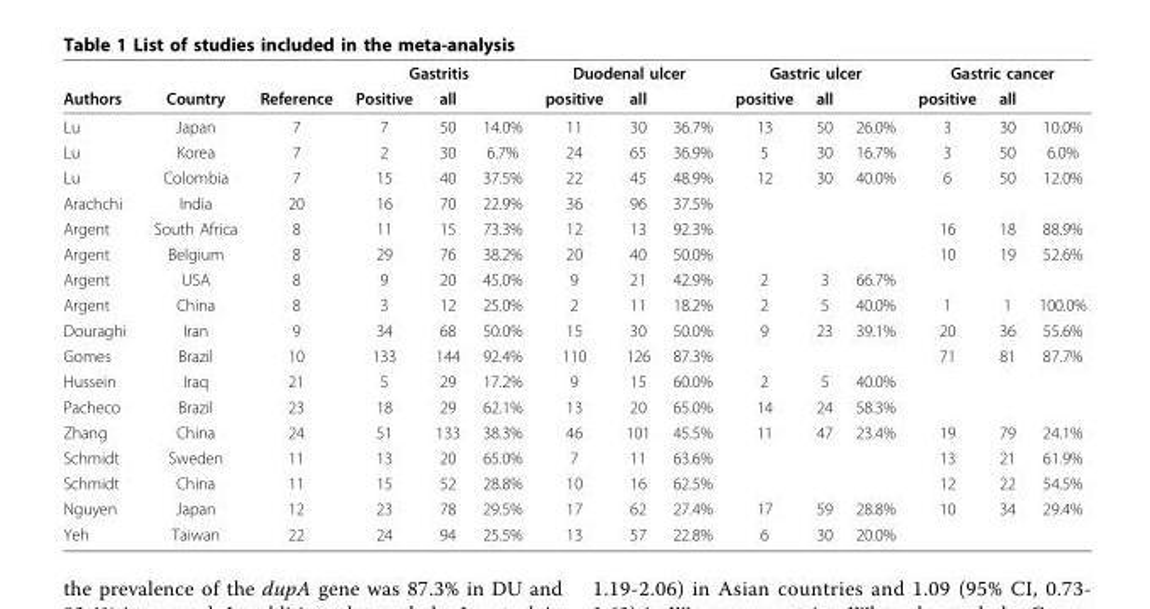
<table><thead><tr><td rowspan="2">Authors</td><td rowspan="2">Country</td><td rowspan="2">Reference</td><td colspan="3">Gastritis</td><td colspan="3">Duodenal ulcer</td><td colspan="3">Gastric ulcer</td><td colspan="3">Gastric cancer</td></tr><tr><td>Positive</td><td>all</td><td></td><td>positive</td><td>all</td><td></td><td>positive</td><td>all</td><td></td><td>positive</td><td>all</td><td></td></tr></thead><tbody><tr><td>Lu</td><td>Japan</td><td>7</td><td>7</td><td>50</td><td>14.0%</td><td>11</td><td>30</td><td>36.7%</td><td>13</td><td>50</td><td>26.0%</td><td>3</td><td>30</td><td>10.0%</td></tr><tr><td>Lu</td><td>Korea</td><td>7</td><td>2</td><td>30</td><td>6.7%</td><td>24</td><td>65</td><td>36.9%</td><td>5</td><td>30</td><td>16.7%</td><td>3</td><td>50</td><td>6.0%</td></tr><tr><td>Lu</td><td>Colombia</td><td>7</td><td>15</td><td>40</td><td>37.5%</td><td>22</td><td>45</td><td>48.9%</td><td>12</td><td>30</td><td>40.0%</td><td>6</td><td>50</td><td>12.0%</td></tr><tr><td>Arachchi</td><td>India</td><td>20</td><td>16</td><td>70</td><td>22.9%</td><td>36</td><td>96</td><td>37.5%</td><td></td><td></td><td></td><td></td><td></td><td></td></tr><tr><td>Argent</td><td>South Africa</td><td>8</td><td>11</td><td>15</td><td>73.3%</td><td>12</td><td>13</td><td>92.3%</td><td></td><td></td><td></td><td>16</td><td>18</td><td>88.9%</td></tr><tr><td>Argent</td><td>Belgium</td><td>8</td><td>29</td><td>76</td><td>38.2%</td><td>20</td><td>40</td><td>50.0%</td><td></td><td></td><td></td><td>10</td><td>19</td><td>52.6%</td></tr><tr><td>Argent</td><td>USA</td><td>8</td><td>9</td><td>20</td><td>45.0%</td><td>9</td><td>21</td><td>42.9%</td><td>2</td><td>3</td><td>66.7%</td><td></td><td></td><td></td></tr><tr><td>Argent</td><td>China</td><td>8</td><td>3</td><td>12</td><td>25.0%</td><td>2</td><td>11</td><td>18.2%</td><td>2</td><td>5</td><td>40.0%</td><td>1</td><td>1</td><td>100.0%</td></tr><tr><td>Douraghi</td><td>Iran</td><td>9</td><td>34</td><td>68</td><td>50.0%</td><td>15</td><td>30</td><td>50.0%</td><td>9</td><td>23</td><td>39.1%</td><td>20</td><td>36</td><td>55.6%</td></tr><tr><td>Gomes</td><td>Brazil</td><td>10</td><td>133</td><td>144</td><td>92.4%</td><td>110</td><td>126</td><td>87.3%</td><td></td><td></td><td></td><td>71</td><td>81</td><td>87.7%</td></tr><tr><td>Hussein</td><td>Iraq</td><td>21</td><td>5</td><td>29</td><td>17.2%</td><td>9</td><td>15</td><td>60.0%</td><td>2</td><td>5</td><td>40.0%</td><td></td><td></td><td></td></tr><tr><td>Pacheco</td><td>Brazil</td><td>23</td><td>18</td><td>29</td><td>62.1%</td><td>13</td><td>20</td><td>65.0%</td><td>14</td><td>24</td><td>58.3%</td><td></td><td></td><td></td></tr><tr><td>Zhang</td><td>China</td><td>24</td><td>51</td><td>133</td><td>38.3%</td><td>46</td><td>101</td><td>45.5%</td><td>11</td><td>47</td><td>23.4%</td><td>19</td><td>79</td><td>24.1%</td></tr><tr><td>Schmidt</td><td>Sweden</td><td>11</td><td>13</td><td>20</td><td>65.0%</td><td>7</td><td>11</td><td>63.6%</td><td></td><td></td><td></td><td>13</td><td>21</td><td>61.9%</td></tr><tr><td>Schmidt</td><td>China</td><td>11</td><td>15</td><td>52</td><td>28.8%</td><td>10</td><td>16</td><td>62.5%</td><td></td><td></td><td></td><td>12</td><td>22</td><td>54.5%</td></tr><tr><td>Nguyen</td><td>Japan</td><td>12</td><td>23</td><td>78</td><td>29.5%</td><td>17</td><td>62</td><td>27.4%</td><td>17</td><td>59</td><td>28.8%</td><td>10</td><td>34</td><td>29.4%</td></tr><tr><td>Yeh</td><td>Taiwan</td><td>22</td><td>24</td><td>94</td><td>25.5%</td><td>13</td><td>57</td><td>22.8%</td><td>6</td><td>30</td><td>20.0%</td><td></td><td></td><td></td></tr></tbody></table>